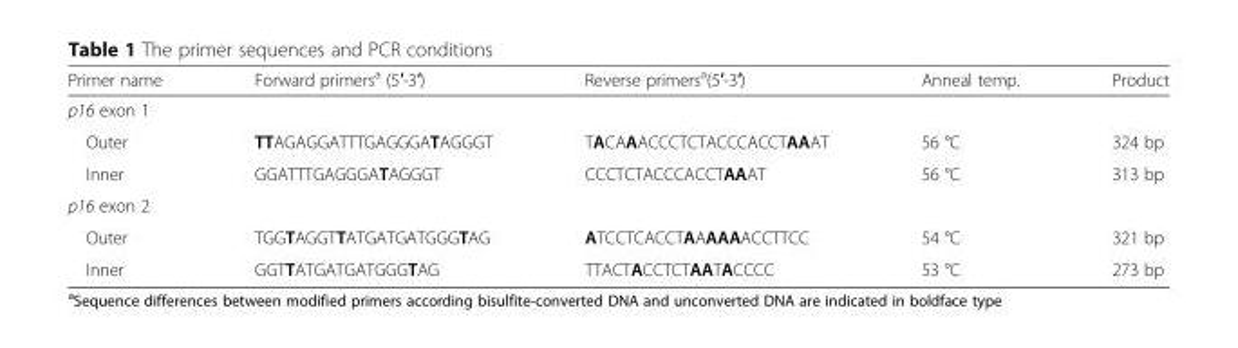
<table><thead><tr><td>Primer name</td><td>Forward primers<sup>a</sup> (5′-3′)</td><td>Reverse primers<sup>a</sup>(5′-3′)</td><td>Anneal temp.</td><td>Product</td></tr></thead><tbody><tr><td colspan="5">p16 exon 1</td></tr><tr><td>Outer</td><td>TTAGAGGATTTGAGGGATAGGGT</td><td>TACAAACCCTCTACCCACCTAAAT</td><td>56 °C</td><td>324 bp</td></tr><tr><td>Inner</td><td>GGATTTGAGGGATAGGGT</td><td>CCCTCTACCCACCTAAAT</td><td>56 °C</td><td>313 bp</td></tr><tr><td colspan="5">p16 exon 2</td></tr><tr><td>Outer</td><td>TGGTAGGTTATGATGATGGGTAG</td><td>ATCCTCACCTAAAAAACCTTCC</td><td>54 °C</td><td>321 bp</td></tr><tr><td>Inner</td><td>GGTTATGATGATGGGTAG</td><td>TTACTACCTCTAATACCCC</td><td>53 °C</td><td>273 bp</td></tr></tbody></table>